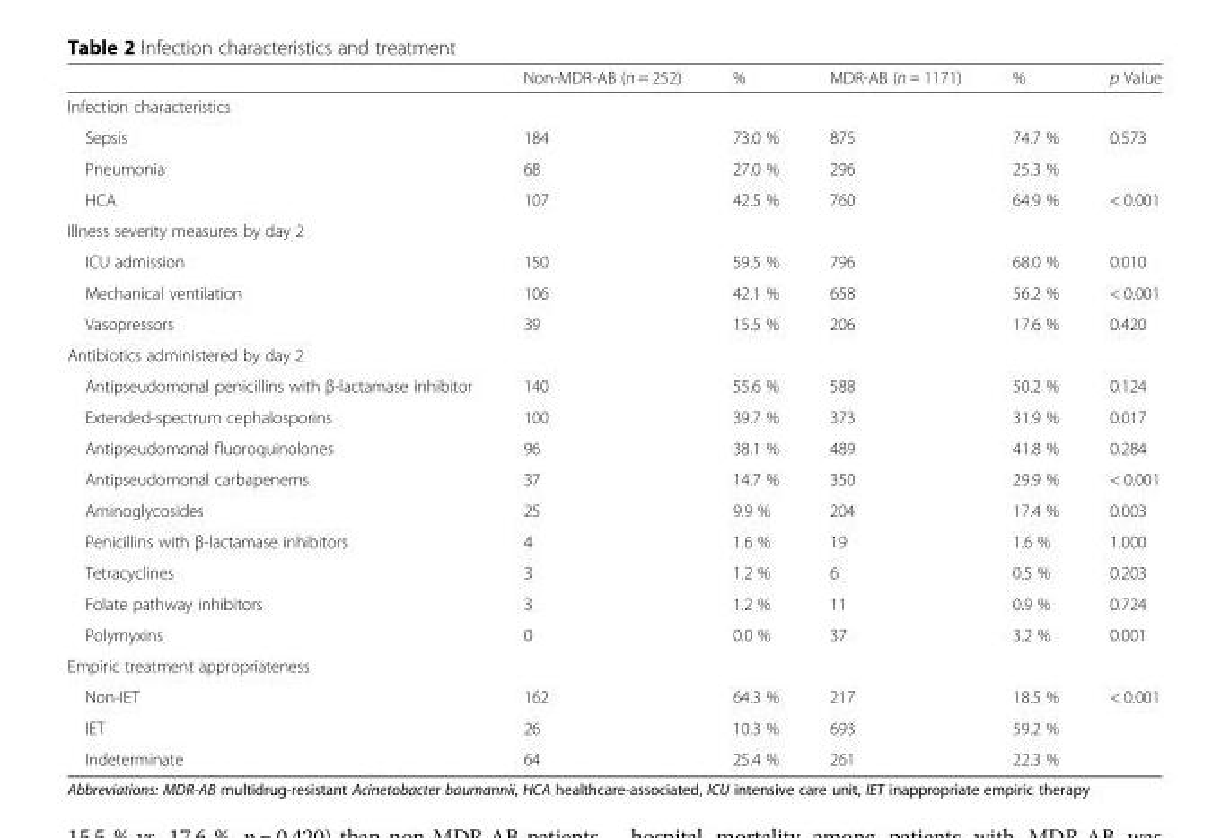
<table><thead><tr><td></td><td>Non-MDR-AB (n = 252)</td><td>%</td><td>MDR-AB (n = 1171)</td><td>%</td><td>p Value</td></tr></thead><tbody><tr><td colspan="6">Infection characteristics</td></tr><tr><td>Sepsis</td><td>184</td><td>73.0 %</td><td>875</td><td>74.7 %</td><td rowspan="2">0.573</td></tr><tr><td>Pneumonia</td><td>68</td><td>27.0 %</td><td>296</td><td>25.3 %</td></tr><tr><td>HCA</td><td>107</td><td>42.5 %</td><td>760</td><td>64.9 %</td><td>&lt; 0.001</td></tr><tr><td colspan="6">Illness severity measures by day 2</td></tr><tr><td>ICU admission</td><td>150</td><td>59.5 %</td><td>796</td><td>68.0 %</td><td>0.010</td></tr><tr><td>Mechanical ventilation</td><td>106</td><td>42.1 %</td><td>658</td><td>56.2 %</td><td>&lt; 0.001</td></tr><tr><td>Vasopressors</td><td>39</td><td>15.5 %</td><td>206</td><td>17.6 %</td><td>0.420</td></tr><tr><td colspan="6">Antibiotics administered by day 2</td></tr><tr><td>Antipseudomonal penicillins with β-lactamase inhibitor</td><td>140</td><td>55.6 %</td><td>588</td><td>50.2 %</td><td>0.124</td></tr><tr><td>Extended-spectrum cephalosporins</td><td>100</td><td>39.7 %</td><td>373</td><td>31.9 %</td><td>0.017</td></tr><tr><td>Antipseudomonal fluoroquinolones</td><td>96</td><td>38.1 %</td><td>489</td><td>41.8 %</td><td>0.284</td></tr><tr><td>Antipseudomonal carbapenems</td><td>37</td><td>14.7 %</td><td>350</td><td>29.9 %</td><td>&lt; 0.001</td></tr><tr><td>Aminoglycosides</td><td>25</td><td>9.9 %</td><td>204</td><td>17.4 %</td><td>0.003</td></tr><tr><td>Penicillins with β-lactamase inhibitors</td><td>4</td><td>1.6 %</td><td>19</td><td>1.6 %</td><td>1.000</td></tr><tr><td>Tetracyclines</td><td>3</td><td>1.2 %</td><td>6</td><td>0.5 %</td><td>0.203</td></tr><tr><td>Folate pathway inhibitors</td><td>3</td><td>1.2 %</td><td>11</td><td>0.9 %</td><td>0.724</td></tr><tr><td>Polymyxins</td><td>0</td><td>0.0 %</td><td>37</td><td>3.2 %</td><td>0.001</td></tr><tr><td colspan="6">Empiric treatment appropriateness</td></tr><tr><td>Non-IET</td><td>162</td><td>64.3 %</td><td>217</td><td>18.5 %</td><td rowspan="3">&lt; 0.001</td></tr><tr><td>IET</td><td>26</td><td>10.3 %</td><td>693</td><td>59.2 %</td></tr><tr><td>Indeterminate</td><td>64</td><td>25.4 %</td><td>261</td><td>22.3 %</td></tr></tbody></table>